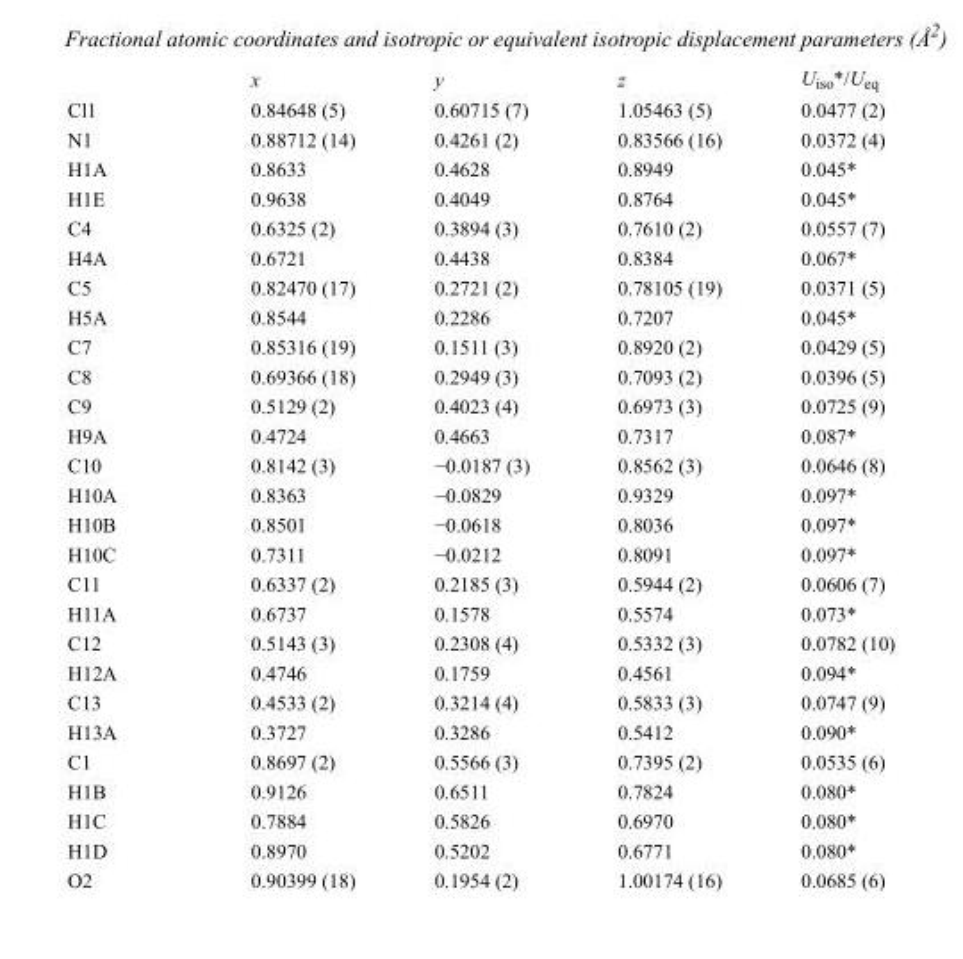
<table><thead><tr><td></td><td>x</td><td>y</td><td>z</td><td>U<sub>iso</sub>*/U<sub>eq</sub></td></tr></thead><tbody><tr><td>Cl1</td><td>0.84648 (5)</td><td>0.60715 (7)</td><td>1.05463 (5)</td><td>0.0477 (2)</td></tr><tr><td>N1</td><td>0.88712 (14)</td><td>0.4261 (2)</td><td>0.83566 (16)</td><td>0.0372 (4)</td></tr><tr><td>H1A</td><td>0.8633</td><td>0.4628</td><td>0.8949</td><td>0.045*</td></tr><tr><td>H1E</td><td>0.9638</td><td>0.4049</td><td>0.8764</td><td>0.045*</td></tr><tr><td>C4</td><td>0.6325 (2)</td><td>0.3894 (3)</td><td>0.7610 (2)</td><td>0.0557 (7)</td></tr><tr><td>H4A</td><td>0.6721</td><td>0.4438</td><td>0.8384</td><td>0.067*</td></tr><tr><td>C5</td><td>0.82470 (17)</td><td>0.2721 (2)</td><td>0.78105 (19)</td><td>0.0371 (5)</td></tr><tr><td>H5A</td><td>0.8544</td><td>0.2286</td><td>0.7207</td><td>0.045*</td></tr><tr><td>C7</td><td>0.85316 (19)</td><td>0.1511 (3)</td><td>0.8920 (2)</td><td>0.0429 (5)</td></tr><tr><td>C8</td><td>0.69366 (18)</td><td>0.2949 (3)</td><td>0.7093 (2)</td><td>0.0396 (5)</td></tr><tr><td>C9</td><td>0.5129 (2)</td><td>0.4023 (4)</td><td>0.6973 (3)</td><td>0.0725 (9)</td></tr><tr><td>H9A</td><td>0.4724</td><td>0.4663</td><td>0.7317</td><td>0.087*</td></tr><tr><td>C10</td><td>0.8142 (3)</td><td>−0.0187 (3)</td><td>0.8562 (3)</td><td>0.0646 (8)</td></tr><tr><td>H10A</td><td>0.8363</td><td>−0.0829</td><td>0.9329</td><td>0.097*</td></tr><tr><td>H10B</td><td>0.8501</td><td>−0.0618</td><td>0.8036</td><td>0.097*</td></tr><tr><td>H10C</td><td>0.7311</td><td>−0.0212</td><td>0.8091</td><td>0.097*</td></tr><tr><td>C11</td><td>0.6337 (2)</td><td>0.2185 (3)</td><td>0.5944 (2)</td><td>0.0606 (7)</td></tr><tr><td>H11A</td><td>0.6737</td><td>0.1578</td><td>0.5574</td><td>0.073*</td></tr><tr><td>C12</td><td>0.5143 (3)</td><td>0.2308 (4)</td><td>0.5332 (3)</td><td>0.0782 (10)</td></tr><tr><td>H12A</td><td>0.4746</td><td>0.1759</td><td>0.4561</td><td>0.094*</td></tr><tr><td>C13</td><td>0.4533 (2)</td><td>0.3214 (4)</td><td>0.5833 (3)</td><td>0.0747 (9)</td></tr><tr><td>H13A</td><td>0.3727</td><td>0.3286</td><td>0.5412</td><td>0.090*</td></tr><tr><td>C1</td><td>0.8697 (2)</td><td>0.5566 (3)</td><td>0.7395 (2)</td><td>0.0535 (6)</td></tr><tr><td>H1B</td><td>0.9126</td><td>0.6511</td><td>0.7824</td><td>0.080*</td></tr><tr><td>H1C</td><td>0.7884</td><td>0.5826</td><td>0.6970</td><td>0.080*</td></tr><tr><td>H1D</td><td>0.8970</td><td>0.5202</td><td>0.6771</td><td>0.080*</td></tr><tr><td>O2</td><td>0.90399 (18)</td><td>0.1954 (2)</td><td>1.00174 (16)</td><td>0.0685 (6)</td></tr></tbody></table>